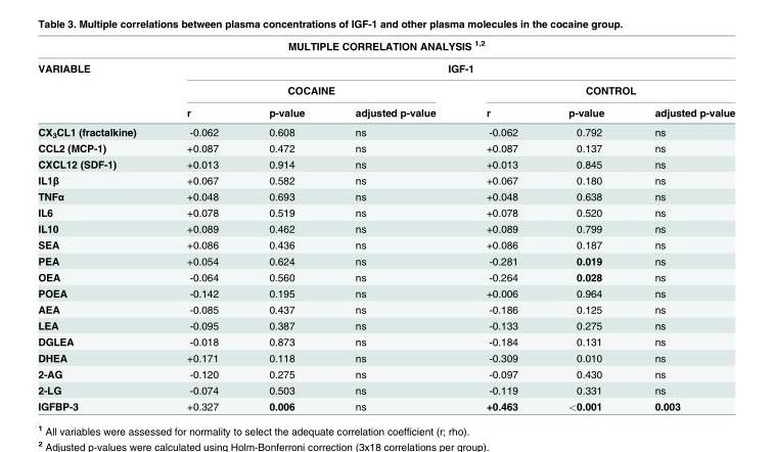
<table><thead><tr><td colspan="7">MULTIPLE CORRELATION ANALYSIS <sup>1,2</sup></td></tr><tr><td rowspan="3">VARIABLE</td><td colspan="6">IGF-1</td></tr><tr><td colspan="3">COCAINE</td><td colspan="3">CONTROL</td></tr><tr><td>r</td><td>p-value</td><td>adjusted p-value</td><td>r</td><td>p-value</td><td>adjusted p-value</td></tr></thead><tbody><tr><td>CX<sub>3</sub>CL1 (fractalkine)</td><td>-0.062</td><td>0.608</td><td>ns</td><td>-0.062</td><td>0.792</td><td>ns</td></tr><tr><td>CCL2 (MCP-1)</td><td>+0.087</td><td>0.472</td><td>ns</td><td>+0.087</td><td>0.137</td><td>ns</td></tr><tr><td>CXCL12 (SDF-1)</td><td>+0.013</td><td>0.914</td><td>ns</td><td>+0.013</td><td>0.845</td><td>ns</td></tr><tr><td>IL1β</td><td>+0.067</td><td>0.582</td><td>ns</td><td>+0.067</td><td>0.180</td><td>ns</td></tr><tr><td>TNFα</td><td>+0.048</td><td>0.693</td><td>ns</td><td>+0.048</td><td>0.638</td><td>ns</td></tr><tr><td>IL6</td><td>+0.078</td><td>0.519</td><td>ns</td><td>+0.078</td><td>0.520</td><td>ns</td></tr><tr><td>IL10</td><td>+0.089</td><td>0.462</td><td>ns</td><td>+0.089</td><td>0.799</td><td>ns</td></tr><tr><td>SEA</td><td>+0.086</td><td>0.436</td><td>ns</td><td>+0.086</td><td>0.187</td><td>ns</td></tr><tr><td>PEA</td><td>+0.054</td><td>0.624</td><td>ns</td><td>-0.281</td><td>0.019</td><td>ns</td></tr><tr><td>OEA</td><td>-0.064</td><td>0.560</td><td>ns</td><td>-0.264</td><td>0.028</td><td>ns</td></tr><tr><td>POEA</td><td>-0.142</td><td>0.195</td><td>ns</td><td>+0.006</td><td>0.964</td><td>ns</td></tr><tr><td>AEA</td><td>-0.085</td><td>0.437</td><td>ns</td><td>-0.186</td><td>0.125</td><td>ns</td></tr><tr><td>LEA</td><td>-0.095</td><td>0.387</td><td>ns</td><td>-0.133</td><td>0.275</td><td>ns</td></tr><tr><td>DGLEA</td><td>-0.018</td><td>0.873</td><td>ns</td><td>-0.184</td><td>0.131</td><td>ns</td></tr><tr><td>DHEA</td><td>+0.171</td><td>0.118</td><td>ns</td><td>-0.309</td><td>0.010</td><td>ns</td></tr><tr><td>2-AG</td><td>-0.120</td><td>0.275</td><td>ns</td><td>-0.097</td><td>0.430</td><td>ns</td></tr><tr><td>2-LG</td><td>-0.074</td><td>0.503</td><td>ns</td><td>-0.119</td><td>0.331</td><td>ns</td></tr><tr><td>IGFBP-3</td><td>+0.327</td><td>0.006</td><td>ns</td><td>+0.463</td><td>&lt;0.001</td><td>0.003</td></tr></tbody></table>